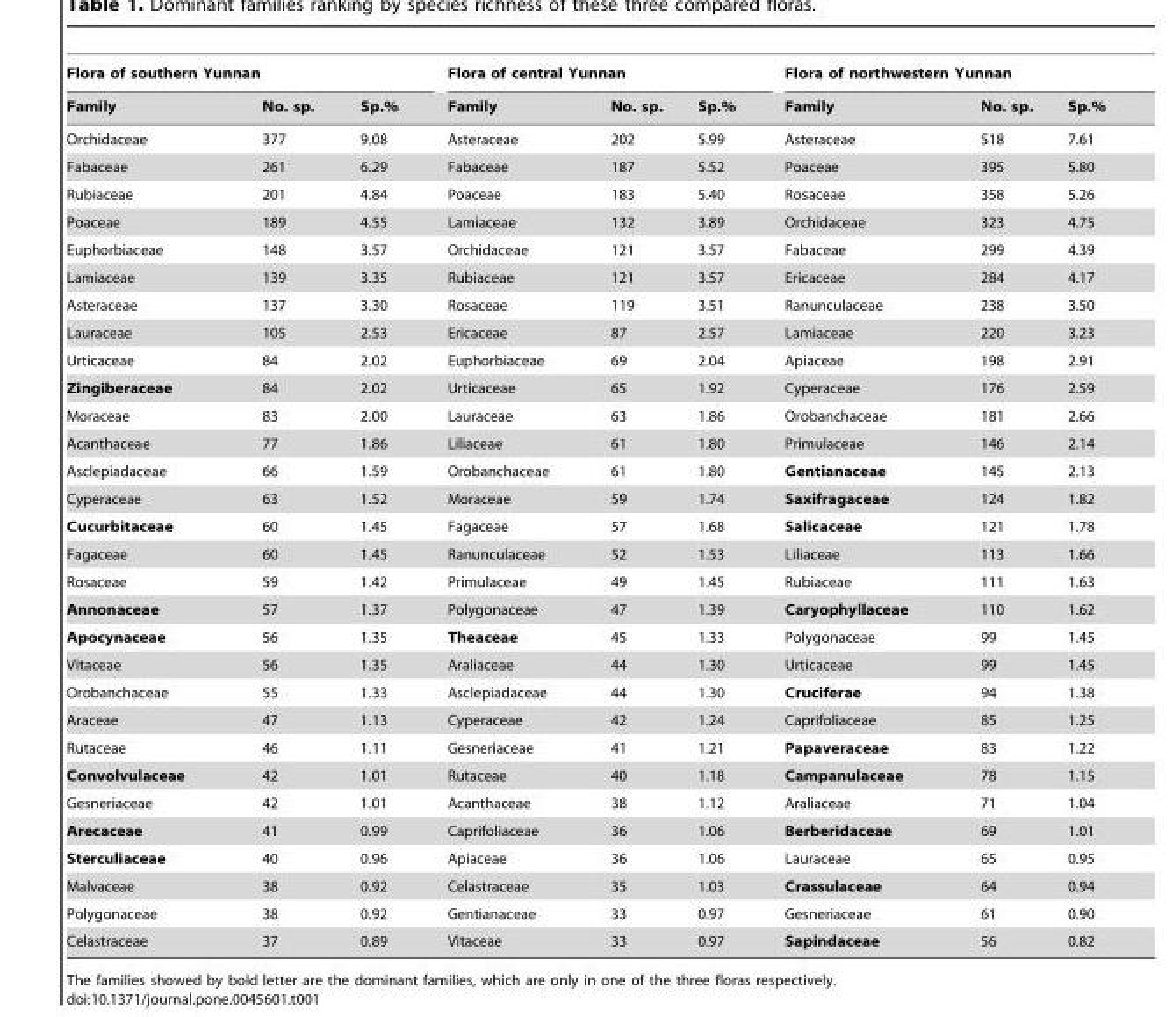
<table><thead><tr><td colspan="3">Flora of southern Yunnan</td><td colspan="3">Flora of central Yunnan</td><td colspan="3">Flora of northwestern Yunnan</td></tr><tr><td>Family</td><td>No. sp.</td><td>Sp.%</td><td>Family</td><td>No. sp.</td><td>Sp.%</td><td>Family</td><td>No. sp.</td><td>Sp.%</td></tr></thead><tbody><tr><td>Orchidaceae</td><td>377</td><td>9.08</td><td>Asteraceae</td><td>202</td><td>5.99</td><td>Asteraceae</td><td>518</td><td>7.61</td></tr><tr><td>Fabaceae</td><td>261</td><td>6.29</td><td>Fabaceae</td><td>187</td><td>5.52</td><td>Poaceae</td><td>395</td><td>5.80</td></tr><tr><td>Rubiaceae</td><td>201</td><td>4.84</td><td>Poaceae</td><td>183</td><td>5.40</td><td>Rosaceae</td><td>358</td><td>5.26</td></tr><tr><td>Poaceae</td><td>189</td><td>4.55</td><td>Lamiaceae</td><td>132</td><td>3.89</td><td>Orchidaceae</td><td>323</td><td>4.75</td></tr><tr><td>Euphorbiaceae</td><td>148</td><td>3.57</td><td>Orchidaceae</td><td>121</td><td>3.57</td><td>Fabaceae</td><td>299</td><td>4.39</td></tr><tr><td>Lamiaceae</td><td>139</td><td>3.35</td><td>Rubiaceae</td><td>121</td><td>3.57</td><td>Ericaceae</td><td>284</td><td>4.17</td></tr><tr><td>Asteraceae</td><td>137</td><td>3.30</td><td>Rosaceae</td><td>119</td><td>3.51</td><td>Ranunculaceae</td><td>238</td><td>3.50</td></tr><tr><td>Lauraceae</td><td>105</td><td>2.53</td><td>Ericaceae</td><td>87</td><td>2.57</td><td>Lamiaceae</td><td>220</td><td>3.23</td></tr><tr><td>Urticaceae</td><td>84</td><td>2.02</td><td>Euphorbiaceae</td><td>69</td><td>2.04</td><td>Apiaceae</td><td>198</td><td>2.91</td></tr><tr><td>Zingiberaceae</td><td>84</td><td>2.02</td><td>Urticaceae</td><td>65</td><td>1.92</td><td>Cyperaceae</td><td>176</td><td>2.59</td></tr><tr><td>Moraceae</td><td>83</td><td>2.00</td><td>Lauraceae</td><td>63</td><td>1.86</td><td>Orobanchaceae</td><td>181</td><td>2.66</td></tr><tr><td>Acanthaceae</td><td>77</td><td>1.86</td><td>Liliaceae</td><td>61</td><td>1.80</td><td>Primulaceae</td><td>146</td><td>2.14</td></tr><tr><td>Asclepiadaceae</td><td>66</td><td>1.59</td><td>Orobanchaceae</td><td>61</td><td>1.80</td><td>Gentianaceae</td><td>145</td><td>2.13</td></tr><tr><td>Cyperaceae</td><td>63</td><td>1.52</td><td>Moraceae</td><td>59</td><td>1.74</td><td>Saxifragaceae</td><td>124</td><td>1.82</td></tr><tr><td>Cucurbitaceae</td><td>60</td><td>1.45</td><td>Fagaceae</td><td>57</td><td>1.68</td><td>Salicaceae</td><td>121</td><td>1.78</td></tr><tr><td>Fagaceae</td><td>60</td><td>1.45</td><td>Ranunculaceae</td><td>52</td><td>1.53</td><td>Liliaceae</td><td>113</td><td>1.66</td></tr><tr><td>Rosaceae</td><td>59</td><td>1.42</td><td>Primulaceae</td><td>49</td><td>1.45</td><td>Rubiaceae</td><td>111</td><td>1.63</td></tr><tr><td>Annonaceae</td><td>57</td><td>1.37</td><td>Polygonaceae</td><td>47</td><td>1.39</td><td>Caryophyllaceae</td><td>110</td><td>1.62</td></tr><tr><td>Apocynaceae</td><td>56</td><td>1.35</td><td>Theaceae</td><td>45</td><td>1.33</td><td>Polygonaceae</td><td>99</td><td>1.45</td></tr><tr><td>Vitaceae</td><td>56</td><td>1.35</td><td>Araliaceae</td><td>44</td><td>1.30</td><td>Urticaceae</td><td>99</td><td>1.45</td></tr><tr><td>Orobanchaceae</td><td>55</td><td>1.33</td><td>Asclepiadaceae</td><td>44</td><td>1.30</td><td>Cruciferae</td><td>94</td><td>1.38</td></tr><tr><td>Araceae</td><td>47</td><td>1.13</td><td>Cyperaceae</td><td>42</td><td>1.24</td><td>Caprifoliaceae</td><td>85</td><td>1.25</td></tr><tr><td>Rutaceae</td><td>46</td><td>1.11</td><td>Gesneriaceae</td><td>41</td><td>1.21</td><td>Papaveraceae</td><td>83</td><td>1.22</td></tr><tr><td>Convolvulaceae</td><td>42</td><td>1.01</td><td>Rutaceae</td><td>40</td><td>1.18</td><td>Campanulaceae</td><td>78</td><td>1.15</td></tr><tr><td>Gesneriaceae</td><td>42</td><td>1.01</td><td>Acanthaceae</td><td>38</td><td>1.12</td><td>Araliaceae</td><td>71</td><td>1.04</td></tr><tr><td>Arecaceae</td><td>41</td><td>0.99</td><td>Caprifoliaceae</td><td>36</td><td>1.06</td><td>Berberidaceae</td><td>69</td><td>1.01</td></tr><tr><td>Sterculiaceae</td><td>40</td><td>0.96</td><td>Apiaceae</td><td>36</td><td>1.06</td><td>Lauraceae</td><td>65</td><td>0.95</td></tr><tr><td>Malvaceae</td><td>38</td><td>0.92</td><td>Celastraceae</td><td>35</td><td>1.03</td><td>Crassulaceae</td><td>64</td><td>0.94</td></tr><tr><td>Polygonaceae</td><td>38</td><td>0.92</td><td>Gentianaceae</td><td>33</td><td>0.97</td><td>Gesneriaceae</td><td>61</td><td>0.90</td></tr><tr><td>Celastraceae</td><td>37</td><td>0.89</td><td>Vitaceae</td><td>33</td><td>0.97</td><td>Sapindaceae</td><td>56</td><td>0.82</td></tr></tbody></table>